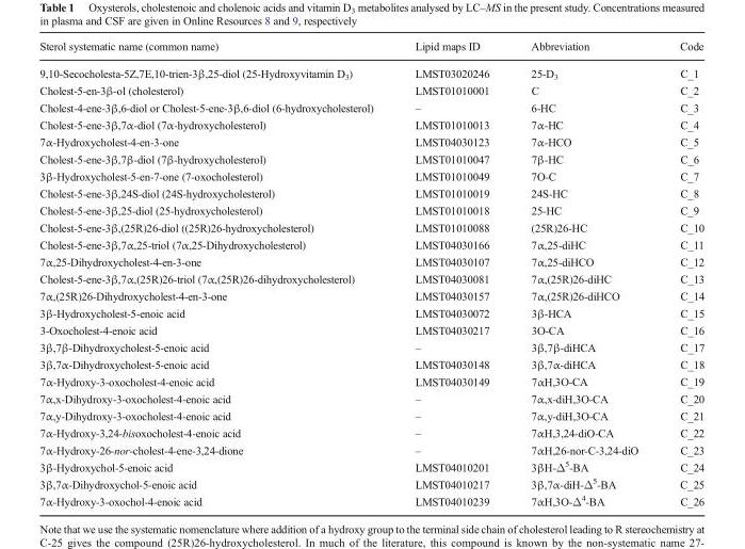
<table><thead><tr><td>Sterol systematic name (common name)</td><td>Lipid maps ID</td><td>Abbreviation</td><td>Code</td></tr></thead><tbody><tr><td>9,10-Secocholesta-5Z,7E,10-trien-3β,25-diol (25-Hydroxyvitamin D<sub>3</sub>)</td><td>LMST03020246</td><td>25-D<sub>3</sub></td><td>C_1</td></tr><tr><td>Cholest-5-en-3β-ol (cholesterol)</td><td>LMST01010001</td><td>C</td><td>C_2</td></tr><tr><td>Cholest-4-ene-3β,6-diol or Cholest-5-ene-3β,6-diol (6-hydroxycholesterol)</td><td>–</td><td>6-HC</td><td>C_3</td></tr><tr><td>Cholest-5-ene-3β,7α-diol (7α-hydroxycholesterol)</td><td>LMST01010013</td><td>7α-HC</td><td>C_4</td></tr><tr><td>7α-Hydroxycholest-4-en-3-one</td><td>LMST04030123</td><td>7α-HCO</td><td>C_5</td></tr><tr><td>Cholest-5-ene-3β,7β-diol (7β-hydroxycholesterol)</td><td>LMST01010047</td><td>7β-HC</td><td>C_6</td></tr><tr><td>3β-Hydroxycholest-5-en-7-one (7-oxocholesterol)</td><td>LMST01010049</td><td>7O-C</td><td>C_7</td></tr><tr><td>Cholest-5-ene-3β,24S-diol (24S-hydroxycholesterol)</td><td>LMST01010019</td><td>24S-HC</td><td>C_8</td></tr><tr><td>Cholest-5-ene-3β,25-diol (25-hydroxycholesterol)</td><td>LMST01010018</td><td>25-HC</td><td>C_9</td></tr><tr><td>Cholest-5-ene-3β,(25R)26-diol ((25R)26-hydroxycholesterol)</td><td>LMST01010088</td><td>(25R)26-HC</td><td>C_10</td></tr><tr><td>Cholest-5-ene-3β,7α,25-triol (7α,25-Dihydroxycholesterol)</td><td>LMST04030166</td><td>7α,25-diHC</td><td>C_11</td></tr><tr><td>7α,25-Dihydroxycholest-4-en-3-one</td><td>LMST04030107</td><td>7α,25-diHCO</td><td>C_12</td></tr><tr><td>Cholest-5-ene-3β,7α,(25R)26-triol (7α,(25R)26-dihydroxycholesterol)</td><td>LMST04030081</td><td>7α,(25R)26-diHC</td><td>C_13</td></tr><tr><td>7α,(25R)26-Dihydroxycholest-4-en-3-one</td><td>LMST04030157</td><td>7α,(25R)26-diHCO</td><td>C_14</td></tr><tr><td>3β-Hydroxycholest-5-enoic acid</td><td>LMST04030072</td><td>3β-HCA</td><td>C_15</td></tr><tr><td>3-Oxocholest-4-enoic acid</td><td>LMST04030217</td><td>3O-CA</td><td>C_16</td></tr><tr><td>3β,7β-Dihydroxycholest-5-enoic acid</td><td>–</td><td>3β,7β-diHCA</td><td>C_17</td></tr><tr><td>3β,7α-Dihydroxycholest-5-enoic acid</td><td>LMST04030148</td><td>3β,7α-diHCA</td><td>C_18</td></tr><tr><td>7α-Hydroxy-3-oxocholest-4-enoic acid</td><td>LMST04030149</td><td>7αH,3O-CA</td><td>C_19</td></tr><tr><td>7α,x-Dihydroxy-3-oxocholest-4-enoic acid</td><td>–</td><td>7α,x-diH,3O-CA</td><td>C_20</td></tr><tr><td>7α,y-Dihydroxy-3-oxocholest-4-enoic acid</td><td>–</td><td>7α,y-diH,3O-CA</td><td>C_21</td></tr><tr><td>7α-Hydroxy-3,24-bisoxocholest-4-enoic acid</td><td>–</td><td>7αH,3,24-diO-CA</td><td>C_22</td></tr><tr><td>7α-Hydroxy-26-nor-cholest-4-ene-3,24-dione</td><td>–</td><td>7αH,26-nor-C-3,24-diO</td><td>C_23</td></tr><tr><td>3β-Hydroxychol-5-enoic acid</td><td>LMST04010201</td><td>3βH-Δ<sup>5</sup>-BA</td><td>C_24</td></tr><tr><td>3β,7α-Dihydroxychol-5-enoic acid</td><td>LMST04010217</td><td>3β,7α-diH-Δ<sup>5</sup>-BA</td><td>C_25</td></tr><tr><td>7α-Hydroxy-3-oxochol-4-enoic acid</td><td>LMST04010239</td><td>7αH,3O-Δ<sup>4</sup>-BA</td><td>C_26</td></tr></tbody></table>